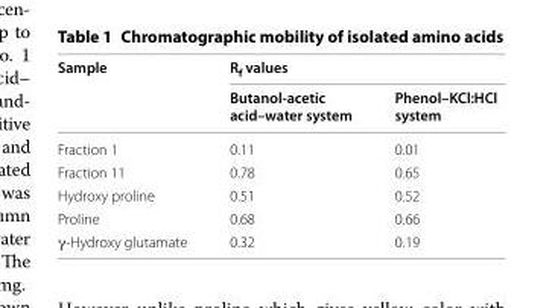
<table><thead><tr><td rowspan="2">Sample</td><td colspan="2">R<sub>f</sub> values</td></tr><tr><td>Butanol‑acetic acid–water system</td><td>Phenol–KCl:HCl system</td></tr></thead><tbody><tr><td>Fraction 1</td><td>0.11</td><td>0.01</td></tr><tr><td>Fraction 11</td><td>0.78</td><td>0.65</td></tr><tr><td>Hydroxy proline</td><td>0.51</td><td>0.52</td></tr><tr><td>Proline</td><td>0.68</td><td>0.66</td></tr><tr><td>γ-Hydroxy glutamate</td><td>0.32</td><td>0.19</td></tr></tbody></table>